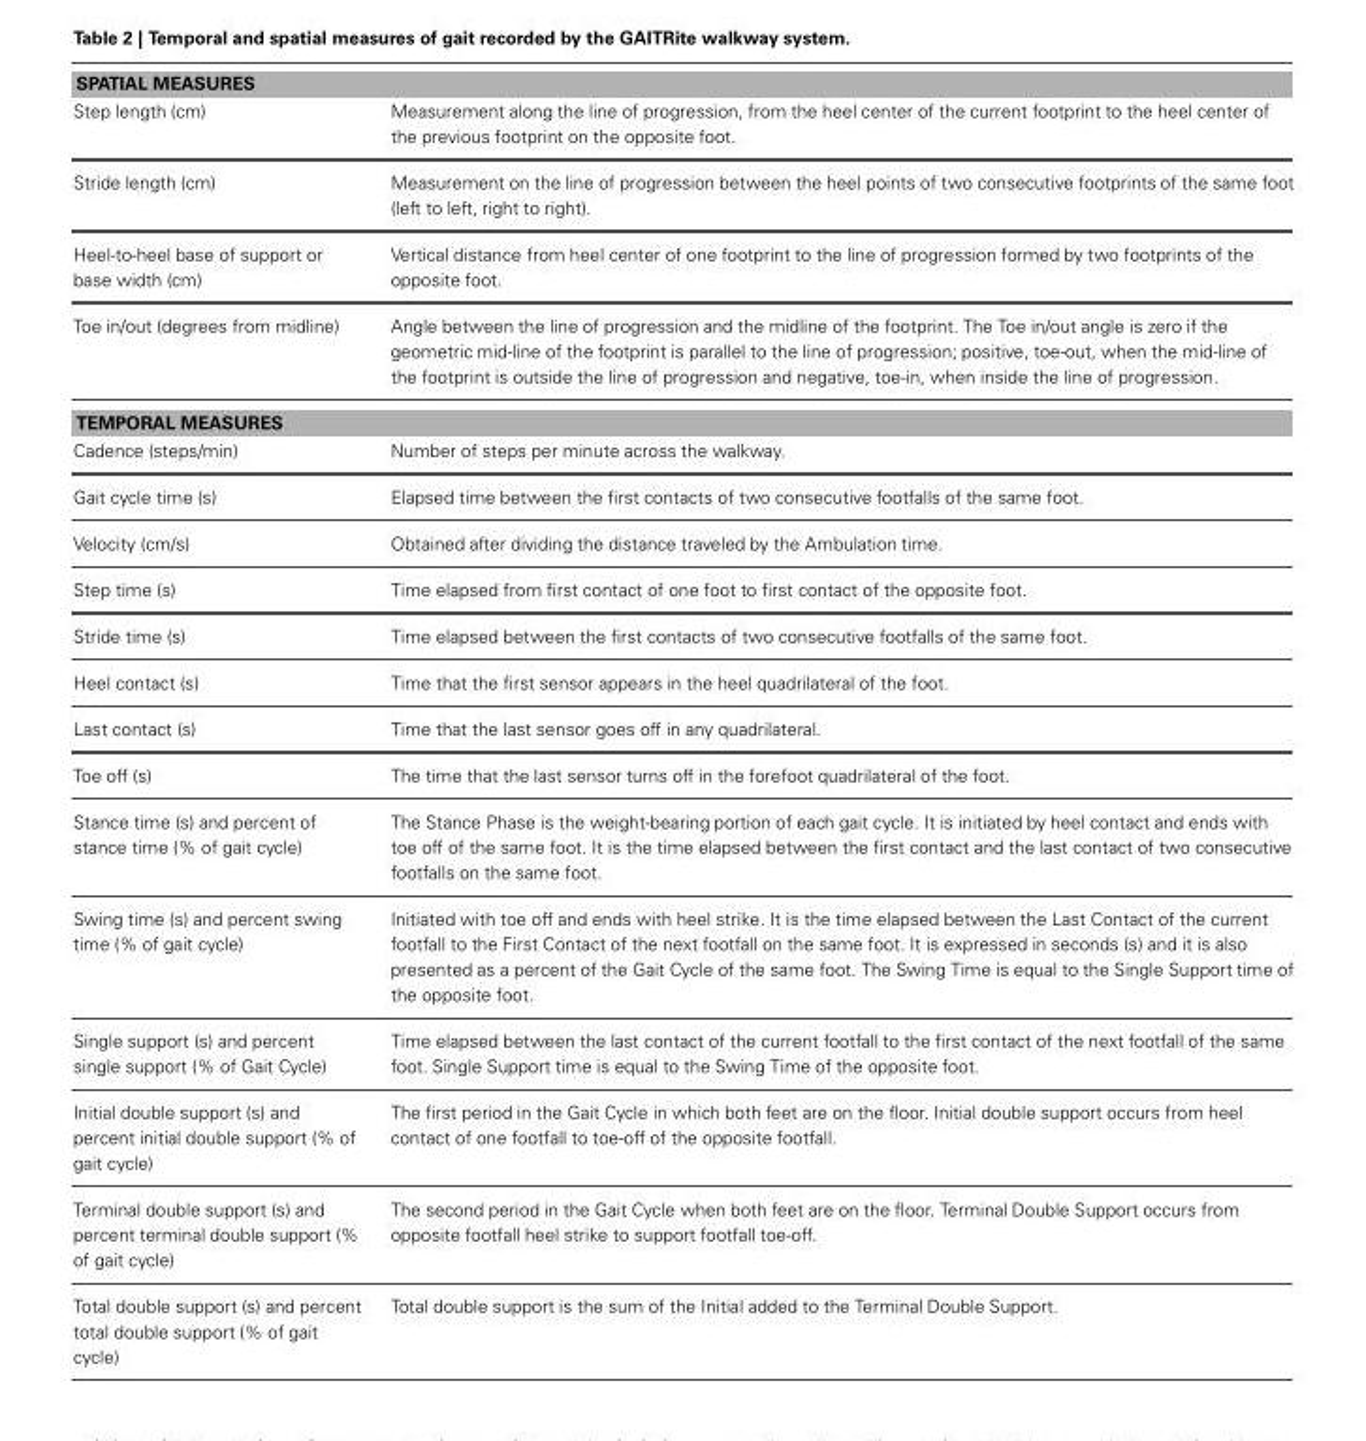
<table><tbody><tr><td colspan="2">SPATIAL MEASURES</td></tr><tr><td>Step length (cm)</td><td>Measurement along the line of progression, from the heel center of the current footprint to the heel center of the previous footprint on the opposite foot.</td></tr><tr><td>Stride length (cm)</td><td>Measurement on the line of progression between the heel points of two consecutive footprints of the same foot (left to left, right to right).</td></tr><tr><td>Heel-to-heel base of support or base width (cm)</td><td>Vertical distance from heel center of one footprint to the line of progression formed by two footprints of the opposite foot.</td></tr><tr><td>Toe in/out (degrees from midline)</td><td>Angle between the line of progression and the midline of the footprint. The Toe in/out angle is zero if the geometric mid-line of the footprint is parallel to the line of progression; positive, toe-out, when the mid-line of the footprint is outside the line of progression and negative, toe-in, when inside the line of progression.</td></tr><tr><td colspan="2">TEMPORAL MEASURES</td></tr><tr><td>Cadence (steps/min)</td><td>Number of steps per minute across the walkway.</td></tr><tr><td>Gait cycle time (s)</td><td>Elapsed time between the first contacts of two consecutive footfalls of the same foot.</td></tr><tr><td>Velocity (cm/s)</td><td>Obtained after dividing the distance traveled by the Ambulation time.</td></tr><tr><td>Step time (s)</td><td>Time elapsed from first contact of one foot to first contact of the opposite foot.</td></tr><tr><td>Stride time (s)</td><td>Time elapsed between the first contacts of two consecutive footfalls of the same foot.</td></tr><tr><td>Heel contact (s)</td><td>Time that the first sensor appears in the heel quadrilateral of the foot.</td></tr><tr><td>Last contact (s)</td><td>Time that the last sensor goes off in any quadrilateral.</td></tr><tr><td>Toe off (s)</td><td>The time that the last sensor turns off in the forefoot quadrilateral of the foot.</td></tr><tr><td>Stance time (s) and percent of stance time (% of gait cycle)</td><td>The Stance Phase is the weight-bearing portion of each gait cycle. It is initiated by heel contact and ends with toe off of the same foot. It is the time elapsed between the first contact and the last contact of two consecutive footfalls on the same foot.</td></tr><tr><td>Swing time (s) and percent swing time (% of gait cycle)</td><td>Initiated with toe off and ends with heel strike. It is the time elapsed between the Last Contact of the current footfall to the First Contact of the next footfall on the same foot. It is expressed in seconds (s) and it is also presented as a percent of the Gait Cycle of the same foot. The Swing Time is equal to the Single Support time of the opposite foot.</td></tr><tr><td>Single support (s) and percent single support (% of Gait Cycle)</td><td>Time elapsed between the last contact of the current footfall to the first contact of the next footfall of the same foot. Single Support time is equal to the Swing Time of the opposite foot.</td></tr><tr><td>Initial double support (s) and percent initial double support (% of gait cycle)</td><td>The first period in the Gait Cycle in which both feet are on the floor. Initial double support occurs from heel contact of one footfall to toe-off of the opposite footfall.</td></tr><tr><td>Terminal double support (s) and percent terminal double support (% of gait cycle)</td><td>The second period in the Gait Cycle when both feet are on the floor. Terminal Double Support occurs from opposite footfall heel strike to support footfall toe-off.</td></tr><tr><td>Total double support (s) and percent total double support (% of gait cycle)</td><td>Total double support is the sum of the Initial added to the Terminal Double Support.</td></tr></tbody></table>